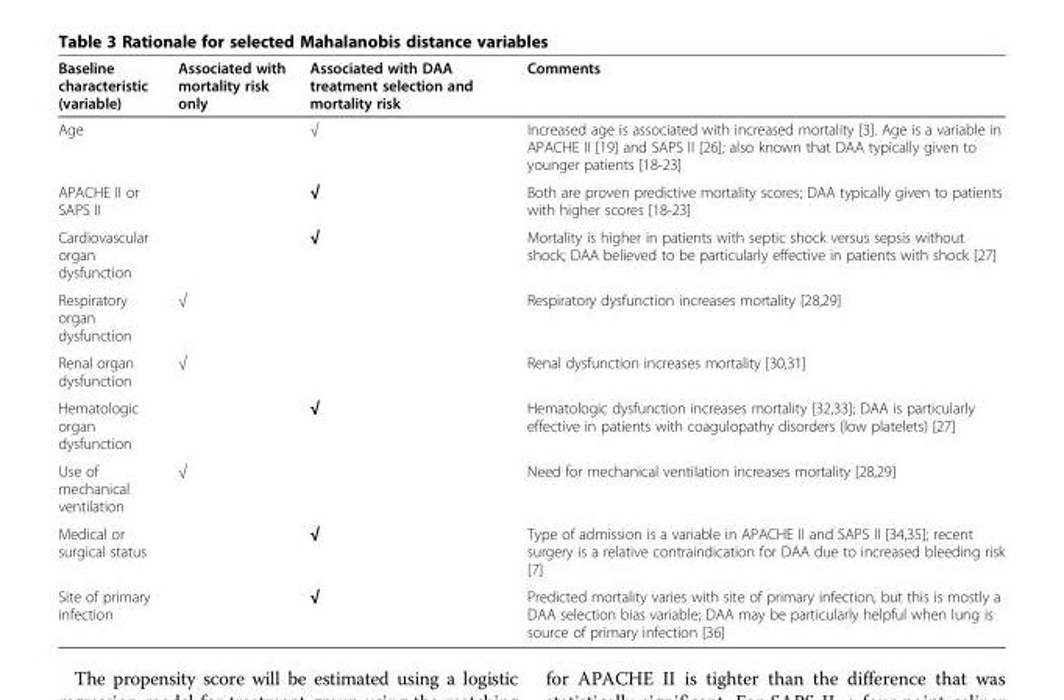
<table><thead><tr><td>Baseline characteristic (variable)</td><td>Associated with mortality risk only</td><td>Associated with DAA treatment selection and mortality risk</td><td>Comments</td></tr></thead><tbody><tr><td>Age</td><td></td><td>√</td><td>Increased age is associated with increased mortality [3]. Age is a variable in APACHE II [19] and SAPS II [26]; also known that DAA typically given to younger patients [18-23]</td></tr><tr><td>APACHE II or SAPS II</td><td></td><td>√</td><td>Both are proven predictive mortality scores; DAA typically given to patients with higher scores [18-23]</td></tr><tr><td>Cardiovascular organ dysfunction</td><td></td><td>√</td><td>Mortality is higher in patients with septic shock versus sepsis without shock; DAA believed to be particularly effective in patients with shock [27]</td></tr><tr><td>Respiratory organ dysfunction</td><td>√</td><td></td><td>Respiratory dysfunction increases mortality [28,29]</td></tr><tr><td>Renal organ dysfunction</td><td>√</td><td></td><td>Renal dysfunction increases mortality [30,31]</td></tr><tr><td>Hematologic organ dysfunction</td><td></td><td>√</td><td>Hematologic dysfunction increases mortality [32,33]; DAA is particularly effective in patients with coagulopathy disorders (low platelets) [27]</td></tr><tr><td>Use of mechanical ventilation</td><td>√</td><td></td><td>Need for mechanical ventilation increases mortality [28,29]</td></tr><tr><td>Medical or surgical status</td><td></td><td>√</td><td>Type of admission is a variable in APACHE II and SAPS II [34,35]; recent surgery is a relative contraindication for DAA due to increased bleeding risk [7]</td></tr><tr><td>Site of primary infection</td><td></td><td>√</td><td>Predicted mortality varies with site of primary infection, but this is mostly a DAA selection bias variable; DAA may be particularly helpful when lung is source of primary infection [36]</td></tr></tbody></table>